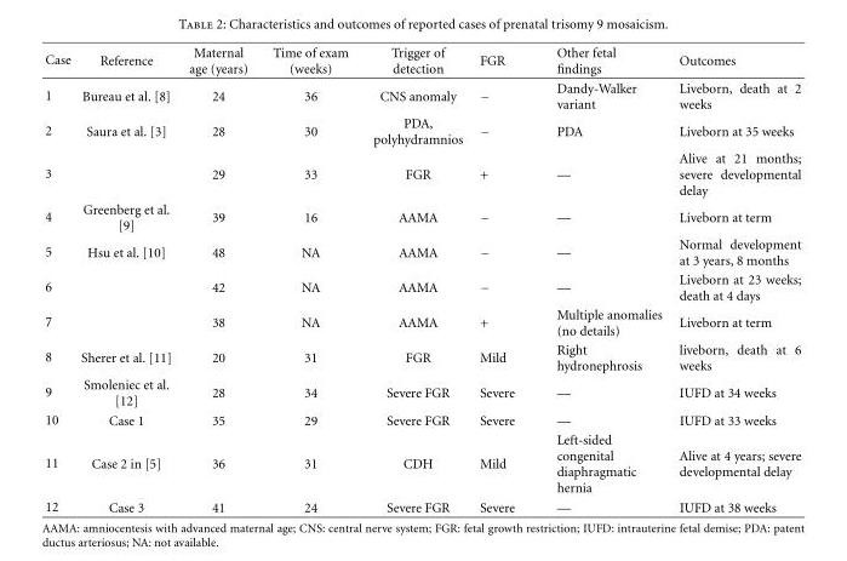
<table><thead><tr><td>Case</td><td>Reference</td><td>Maternal age (years)</td><td>Time of exam (weeks)</td><td>Trigger of detection</td><td>FGR</td><td>Other fetal findings</td><td>Outcomes</td></tr></thead><tbody><tr><td>1</td><td>Bureau et al. [8]</td><td>24</td><td>36</td><td>CNS anomaly</td><td>−</td><td>Dandy-Walker variant</td><td>Liveborn, death at 2 weeks</td></tr><tr><td>2</td><td>Saura et al. [3]</td><td>28</td><td>30</td><td>PDA, polyhydramnios</td><td>−</td><td>PDA</td><td>Liveborn at 35 weeks</td></tr><tr><td>3</td><td></td><td>29</td><td>33</td><td>FGR</td><td>+</td><td>—</td><td>Alive at 21 months; severe developmental delay</td></tr><tr><td>4</td><td>Greenberg et al. [9]</td><td>39</td><td>16</td><td>AAMA</td><td>−</td><td>—</td><td>Liveborn at term</td></tr><tr><td>5</td><td>Hsu et al. [10]</td><td>48</td><td>NA</td><td>AAMA</td><td>−</td><td>—</td><td>Normal development at 3 years, 8 months</td></tr><tr><td>6</td><td></td><td>42</td><td>NA</td><td>AAMA</td><td>−</td><td>—</td><td>Liveborn at 23 weeks; death at 4 days</td></tr><tr><td>7</td><td></td><td>38</td><td>NA</td><td>AAMA</td><td>+</td><td>Multiple anomalies (no details)</td><td>Liveborn at term</td></tr><tr><td>8</td><td>Sherer et al. [11]</td><td>20</td><td>31</td><td>FGR</td><td>Mild</td><td>Right hydronephrosis</td><td>liveborn, death at 6 weeks</td></tr><tr><td>9</td><td>Smoleniec et al. [12]</td><td>28</td><td>34</td><td>Severe FGR</td><td>Severe</td><td>—</td><td>IUFD at 34 weeks</td></tr><tr><td>10</td><td>Case 1</td><td>35</td><td>29</td><td>Severe FGR</td><td>Severe</td><td>—</td><td>IUFD at 33 weeks</td></tr><tr><td>11</td><td>Case 2 in [5]</td><td>36</td><td>31</td><td>CDH</td><td>Mild</td><td>Left-sided congenital diaphragmatic hernia</td><td>Alive at 4 years; severe developmental delay</td></tr><tr><td>12</td><td>Case 3</td><td>41</td><td>24</td><td>Severe FGR</td><td>Severe</td><td>—</td><td>IUFD at 38 weeks</td></tr></tbody></table>